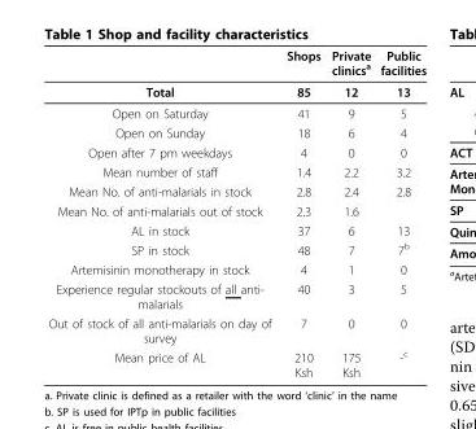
<table><thead><tr><td></td><td>Shops</td><td>Private clinics<sup>a</sup></td><td>Public facilities</td></tr></thead><tbody><tr><td>Total</td><td>85</td><td>12</td><td>13</td></tr><tr><td>Open on Saturday</td><td>41</td><td>9</td><td>5</td></tr><tr><td>Open on Sunday</td><td>18</td><td>6</td><td>4</td></tr><tr><td>Open after 7 pm weekdays</td><td>4</td><td>0</td><td>0</td></tr><tr><td>Mean number of staff</td><td>1.4</td><td>2.2</td><td>3.2</td></tr><tr><td>Mean No. of anti-malarials in stock</td><td>2.8</td><td>2.4</td><td>2.8</td></tr><tr><td>Mean No. of anti-malarials out of stock</td><td>2.3</td><td>1.6</td><td></td></tr><tr><td>AL in stock</td><td>37</td><td>6</td><td>13</td></tr><tr><td>SP in stock</td><td>48</td><td>7</td><td>7<sup>b</sup></td></tr><tr><td>Artemisinin monotherapy in stock</td><td>4</td><td>1</td><td>0</td></tr><tr><td>Experience regular stockouts of all anti- malarials</td><td>40</td><td>3</td><td>5</td></tr><tr><td>Out of stock of all anti-malarials on day of survey</td><td>7</td><td>0</td><td>0</td></tr><tr><td>Mean price of AL</td><td>210 Ksh</td><td>175 Ksh</td><td>-<sup>c</sup></td></tr></tbody></table>